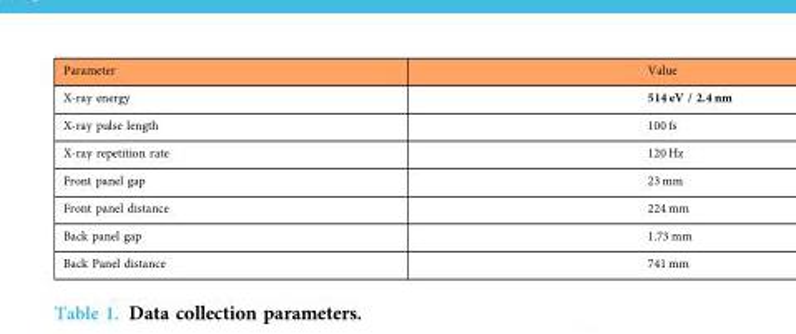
<table><thead><tr><td>Parameter</td><td>Value</td></tr></thead><tbody><tr><td>X-ray energy</td><td>514 eV / 2.4 nm</td></tr><tr><td>X-ray pulse length</td><td>100 fs</td></tr><tr><td>X-ray repetition rate</td><td>120 Hz</td></tr><tr><td>Front panel gap</td><td>23 mm</td></tr><tr><td>Front panel distance</td><td>224 mm</td></tr><tr><td>Back panel gap</td><td>1.73 mm</td></tr><tr><td>Back Panel distance</td><td>741 mm</td></tr></tbody></table>